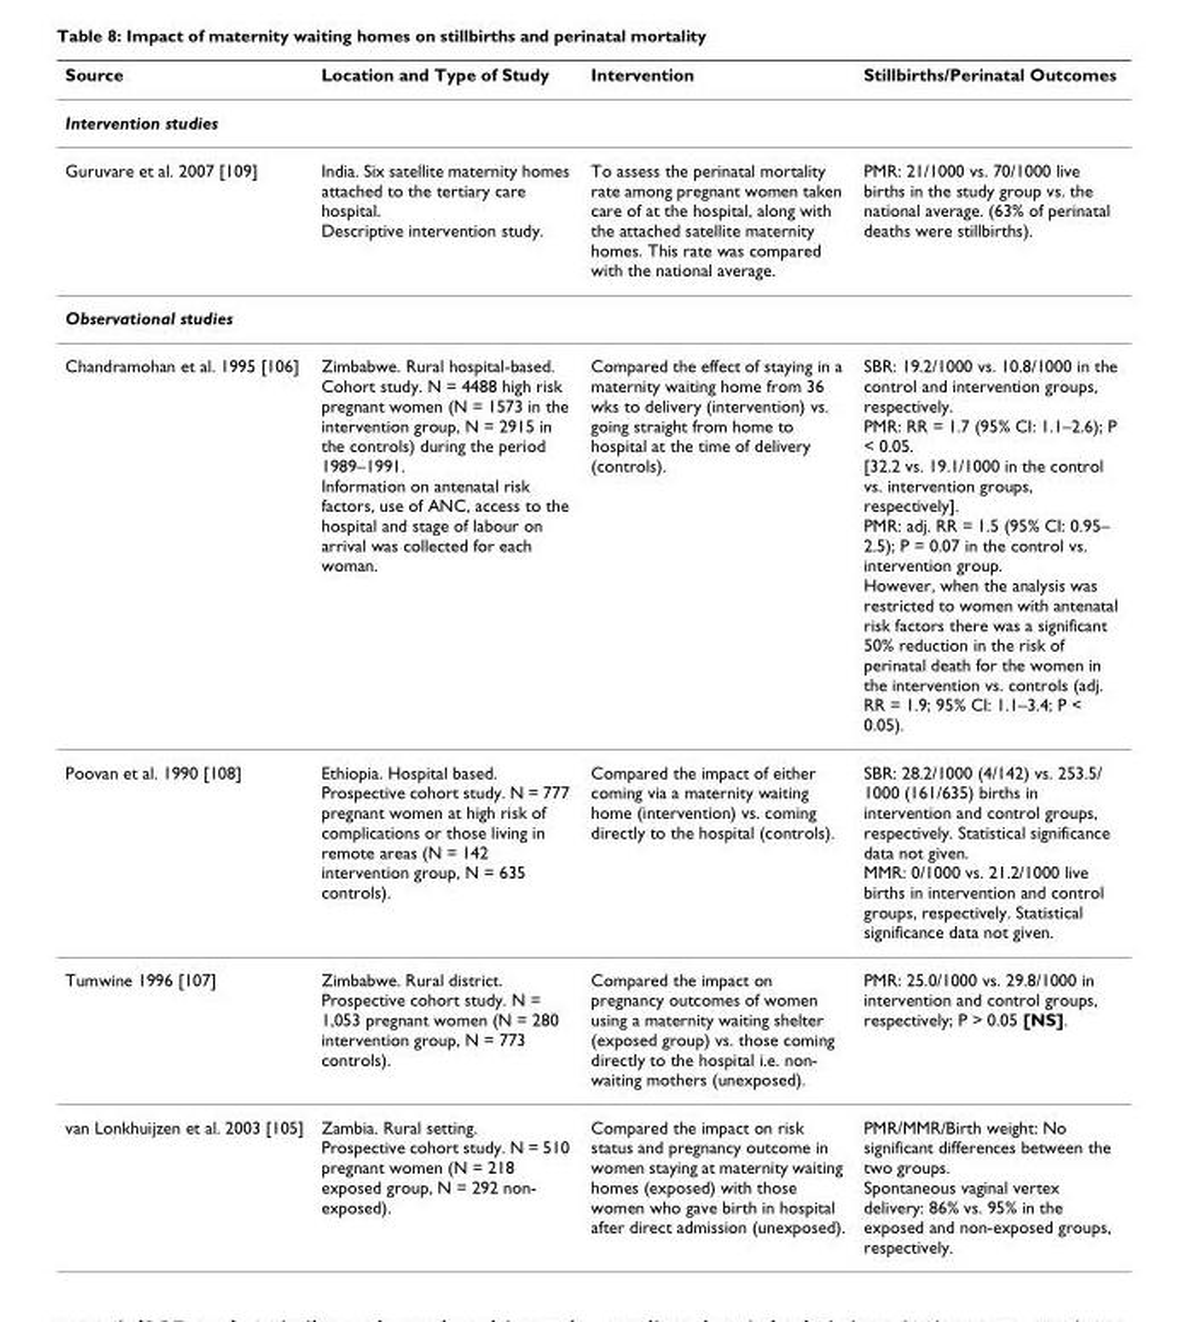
<table><thead><tr><td>Source</td><td>Location and Type of Study</td><td>Intervention</td><td>Stillbirths/Perinatal Outcomes</td></tr></thead><tbody><tr><td colspan="4">Intervention studies</td></tr><tr><td>Guruvare et al. 2007 [109]</td><td>India. Six satellite maternity homes attached to the tertiary care hospital. Descriptive intervention study.</td><td>To assess the perinatal mortality rate among pregnant women taken care of at the hospital, along with the attached satellite maternity homes. This rate was compared with the national average.</td><td>PMR: 21/1000 vs. 70/1000 live births in the study group vs. the national average. (63% of perinatal deaths were stillbirths).</td></tr><tr><td colspan="4">Observational studies</td></tr><tr><td>Chandramohan et al. 1995 [106]</td><td>Zimbabwe. Rural hospital-based. Cohort study. N = 4488 high risk pregnant women (N = 1573 in the intervention group, N = 2915 in the controls) during the period 1989–1991. Information on antenatal risk factors, use of ANC, access to the hospital and stage of labour on arrival was collected for each woman.</td><td>Compared the effect of staying in a maternity waiting home from 36 wks to delivery (intervention) vs. going straight from home to hospital at the time of delivery (controls).</td><td>SBR: 19.2/1000 vs. 10.8/1000 in the control and intervention groups, respectively. PMR: RR = 1.7 (95% CI: 1.1–2.6); P &lt; 0.05. [32.2 vs. 19.1/1000 in the control vs. intervention groups, respectively]. PMR: adj. RR = 1.5 (95% CI: 0.95– 2.5); P = 0.07 in the control vs. intervention group. However, when the analysis was restricted to women with antenatal risk factors there was a significant 50% reduction in the risk of perinatal death for the women in the intervention vs. controls (adj. RR = 1.9; 95% CI: 1.1–3.4; P &lt; 0.05).</td></tr><tr><td>Poovan et al. 1990 [108]</td><td>Ethiopia. Hospital based. Prospective cohort study. N = 777 pregnant women at high risk of complications or those living in remote areas (N = 142 intervention group, N = 635 controls).</td><td>Compared the impact of either coming via a maternity waiting home (intervention) vs. coming directly to the hospital (controls).</td><td>SBR: 28.2/1000 (4/142) vs. 253.5/ 1000 (161/635) births in intervention and control groups, respectively. Statistical significance data not given. MMR: 0/1000 vs. 21.2/1000 live births in intervention and control groups, respectively. Statistical significance data not given.</td></tr><tr><td>Tumwine 1996 [107]</td><td>Zimbabwe. Rural district. Prospective cohort study. N = 1,053 pregnant women (N = 280 intervention group, N = 773 controls).</td><td>Compared the impact on pregnancy outcomes of women using a maternity waiting shelter (exposed group) vs. those coming directly to the hospital i.e. non- waiting mothers (unexposed).</td><td>PMR: 25.0/1000 vs. 29.8/1000 in intervention and control groups, respectively; P &gt; 0.05 [NS].</td></tr><tr><td>van Lonkhuijzen et al. 2003 [105]</td><td>Zambia. Rural setting. Prospective cohort study. N = 510 pregnant women (N = 218 exposed group, N = 292 non- exposed).</td><td>Compared the impact on risk status and pregnancy outcome in women staying at maternity waiting homes (exposed) with those women who gave birth in hospital after direct admission (unexposed).</td><td>PMR/MMR/Birth weight: No significant differences between the two groups. Spontaneous vaginal vertex delivery: 86% vs. 95% in the exposed and non-exposed groups, respectively.</td></tr></tbody></table>